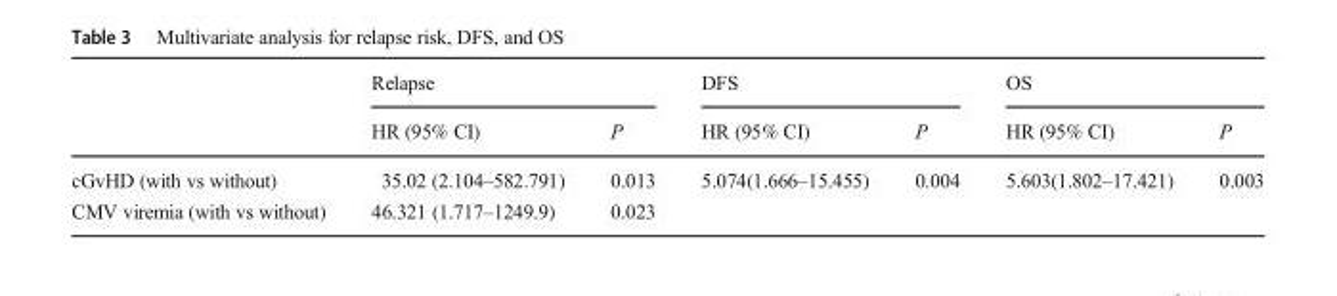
<table><thead><tr><td rowspan="2"></td><td colspan="2">Relapse</td><td colspan="2">DFS</td><td colspan="2">OS</td></tr><tr><td>HR (95% CI)</td><td>P</td><td>HR (95% CI)</td><td>P</td><td>HR (95% CI)</td><td>P</td></tr></thead><tbody><tr><td>cGvHD (with vs without)</td><td>35.02 (2.104–582.791)</td><td>0.013</td><td>5.074(1.666–15.455)</td><td>0.004</td><td>5.603(1.802–17.421)</td><td>0.003</td></tr><tr><td>CMV viremia (with vs without)</td><td>46.321 (1.717–1249.9)</td><td>0.023</td><td></td><td></td><td></td><td></td></tr></tbody></table>